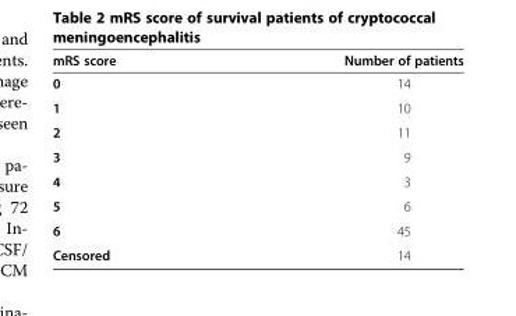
<table><thead><tr><td>mRS score</td><td>Number of patients</td></tr></thead><tbody><tr><td>0</td><td>14</td></tr><tr><td>1</td><td>10</td></tr><tr><td>2</td><td>11</td></tr><tr><td>3</td><td>9</td></tr><tr><td>4</td><td>3</td></tr><tr><td>5</td><td>6</td></tr><tr><td>6</td><td>45</td></tr><tr><td>Censored</td><td>14</td></tr></tbody></table>